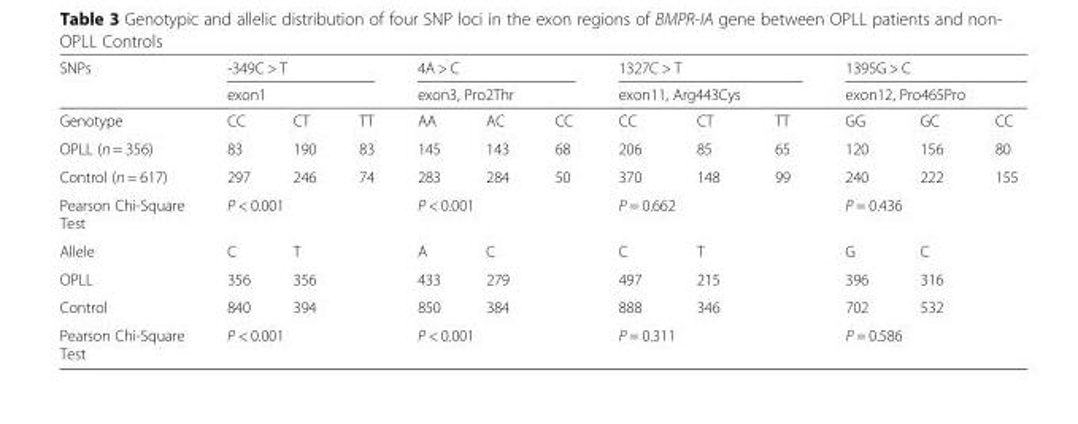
<table><thead><tr><td rowspan="3">SNPs Genotype</td><td rowspan="2" colspan="3">-349C &gt; T exon1</td><td rowspan="2" colspan="3">4A &gt; C exon3, Pro2Thr</td><td rowspan="2" colspan="3">1327C &gt; T exon11, Arg443Cys</td><td rowspan="2" colspan="3">1395G &gt; C exon12, Pro465Pro</td></tr><tr></tr><tr><td>CC</td><td>CT</td><td>TT</td><td>AA</td><td>AC</td><td>CC</td><td>CC</td><td>CT</td><td>TT</td><td>GG</td><td>GC</td><td>CC</td></tr></thead><tbody><tr><td>OPLL (n = 356)</td><td>83</td><td>190</td><td>83</td><td>145</td><td>143</td><td>68</td><td>206</td><td>85</td><td>65</td><td>120</td><td>156</td><td>80</td></tr><tr><td>Control (n = 617)</td><td>297</td><td>246</td><td>74</td><td>283</td><td>284</td><td>50</td><td>370</td><td>148</td><td>99</td><td>240</td><td>222</td><td>155</td></tr><tr><td>Pearson Chi-Square Test</td><td colspan="3">P &lt; 0.001</td><td colspan="3">P &lt; 0.001</td><td colspan="3">P = 0.662</td><td colspan="3">P = 0.436</td></tr><tr><td>Allele</td><td>C</td><td colspan="2">T</td><td>A</td><td colspan="2">C</td><td>C</td><td colspan="2">T</td><td>G</td><td colspan="2">C</td></tr><tr><td>OPLL</td><td>356</td><td colspan="2">356</td><td>433</td><td colspan="2">279</td><td>497</td><td colspan="2">215</td><td>396</td><td colspan="2">316</td></tr><tr><td>Control</td><td>840</td><td colspan="2">394</td><td>850</td><td colspan="2">384</td><td>888</td><td colspan="2">346</td><td>702</td><td colspan="2">532</td></tr><tr><td>Pearson Chi-Square Test</td><td colspan="3">P &lt; 0.001</td><td colspan="3">P &lt; 0.001</td><td colspan="3">P = 0.311</td><td colspan="3">P = 0.586</td></tr></tbody></table>